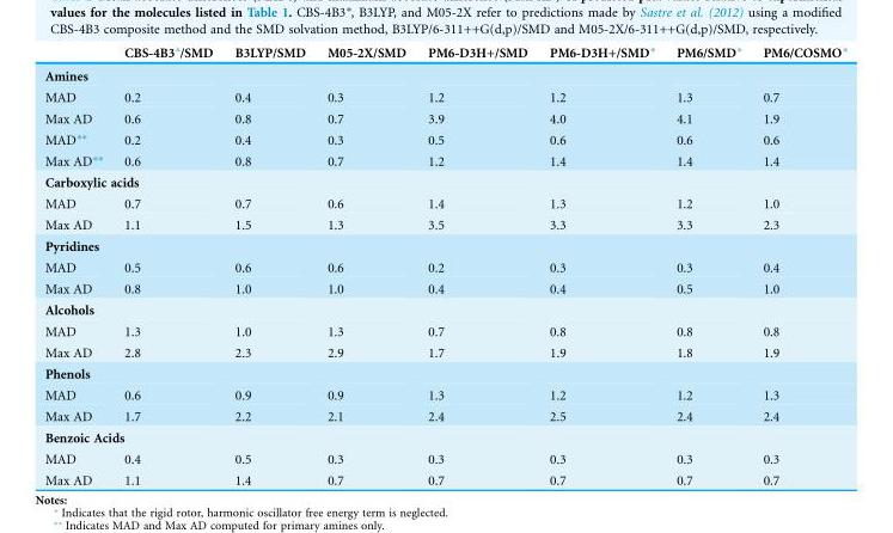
<table><thead><tr><td></td><td>CBS-4B3*/SMD</td><td>B3LYP/SMD</td><td>M05-2X/SMD</td><td>PM6-D3H+/SMD</td><td>PM6-D3H+/SMD*</td><td>PM6/SMD*</td><td>PM6/COSMO*</td></tr></thead><tbody><tr><td colspan="8">Amines</td></tr><tr><td>MAD</td><td>0.2</td><td>0.4</td><td>0.3</td><td>1.2</td><td>1.2</td><td>1.3</td><td>0.7</td></tr><tr><td>Max AD</td><td>0.6</td><td>0.8</td><td>0.7</td><td>3.9</td><td>4.0</td><td>4.1</td><td>1.9</td></tr><tr><td>MAD**</td><td>0.2</td><td>0.4</td><td>0.3</td><td>0.5</td><td>0.6</td><td>0.6</td><td>0.6</td></tr><tr><td>Max AD**</td><td>0.6</td><td>0.8</td><td>0.7</td><td>1.2</td><td>1.4</td><td>1.4</td><td>1.4</td></tr><tr><td colspan="8">Carboxylic acids</td></tr><tr><td>MAD</td><td>0.7</td><td>0.7</td><td>0.6</td><td>1.4</td><td>1.3</td><td>1.2</td><td>1.0</td></tr><tr><td>Max AD</td><td>1.1</td><td>1.5</td><td>1.3</td><td>3.5</td><td>3.3</td><td>3.3</td><td>2.3</td></tr><tr><td colspan="8">Pyridines</td></tr><tr><td>MAD</td><td>0.5</td><td>0.6</td><td>0.6</td><td>0.2</td><td>0.3</td><td>0.3</td><td>0.4</td></tr><tr><td>Max AD</td><td>0.8</td><td>1.0</td><td>1.0</td><td>0.4</td><td>0.4</td><td>0.5</td><td>1.0</td></tr><tr><td colspan="8">Alcohols</td></tr><tr><td>MAD</td><td>1.3</td><td>1.0</td><td>1.3</td><td>0.7</td><td>0.8</td><td>0.8</td><td>0.8</td></tr><tr><td>Max AD</td><td>2.8</td><td>2.3</td><td>2.9</td><td>1.7</td><td>1.9</td><td>1.8</td><td>1.9</td></tr><tr><td colspan="8">Phenols</td></tr><tr><td>MAD</td><td>0.6</td><td>0.9</td><td>0.9</td><td>1.3</td><td>1.2</td><td>1.2</td><td>1.3</td></tr><tr><td>Max AD</td><td>1.7</td><td>2.2</td><td>2.1</td><td>2.4</td><td>2.5</td><td>2.4</td><td>2.4</td></tr><tr><td colspan="8">Benzoic Acids</td></tr><tr><td>MAD</td><td>0.4</td><td>0.5</td><td>0.3</td><td>0.3</td><td>0.3</td><td>0.3</td><td>0.3</td></tr><tr><td>Max AD</td><td>1.1</td><td>1.4</td><td>0.7</td><td>0.7</td><td>0.7</td><td>0.7</td><td>0.7</td></tr></tbody></table>